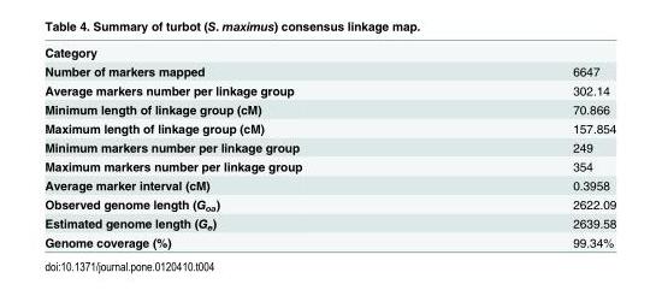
<table><tbody><tr><td colspan="2">Category</td></tr><tr><td>Number of markers mapped</td><td>6647</td></tr><tr><td>Average markers number per linkage group</td><td>302.14</td></tr><tr><td>Minimum length of linkage group (cM)</td><td>70.866</td></tr><tr><td>Maximum length of linkage group (cM)</td><td>157.854</td></tr><tr><td>Minimum markers number per linkage group</td><td>249</td></tr><tr><td>Maximum markers number per linkage group</td><td>354</td></tr><tr><td>Average marker interval (cM)</td><td>0.3958</td></tr><tr><td>Observed genome length (G<sub>oa</sub>)</td><td>2622.09</td></tr><tr><td>Estimated genome length (G<sub>e</sub>)</td><td>2639.58</td></tr><tr><td>Genome coverage (%)</td><td>99.34%</td></tr></tbody></table>